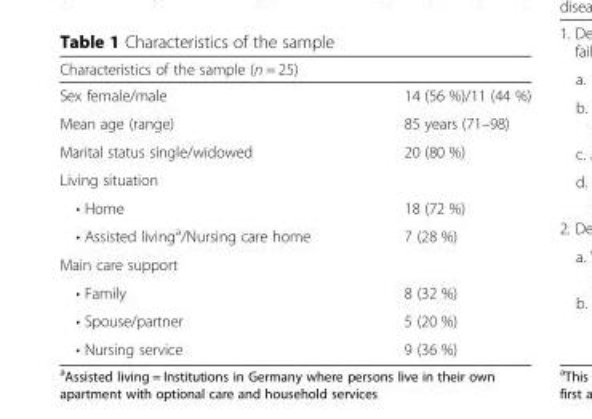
<table><thead><tr><td colspan="2">Characteristics of the sample (n = 25)</td></tr><tr><td>Sex female/male</td><td>14 (56 %)/11 (44 %)</td></tr></thead><tbody><tr><td>Mean age (range)</td><td>85 years (71–98)</td></tr><tr><td>Marital status single/widowed</td><td>20 (80 %)</td></tr><tr><td colspan="2">Living situation</td></tr><tr><td>• Home</td><td>18 (72 %)</td></tr><tr><td>• Assisted living<sup>a</sup>/Nursing care home</td><td>7 (28 %)</td></tr><tr><td colspan="2">Main care support</td></tr><tr><td>• Family</td><td>8 (32 %)</td></tr><tr><td>• Spouse/partner</td><td>5 (20 %)</td></tr><tr><td>• Nursing service</td><td>9 (36 %)</td></tr></tbody></table>